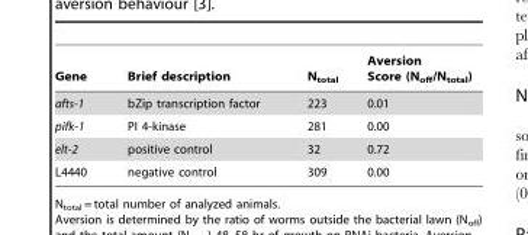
<table><thead><tr><td>Gene</td><td>Brief description</td><td>N<sub>total</sub></td><td>Aversion Score (N<sub>off</sub>/N<sub>total</sub>)</td></tr></thead><tbody><tr><td>afts-1</td><td>bZip transcription factor</td><td>223</td><td>0.01</td></tr><tr><td>pifk-1</td><td>PI 4-kinase</td><td>281</td><td>0.00</td></tr><tr><td>elt-2</td><td>positive control</td><td>32</td><td>0.72</td></tr><tr><td>L4440</td><td>negative control</td><td>309</td><td>0.00</td></tr></tbody></table>